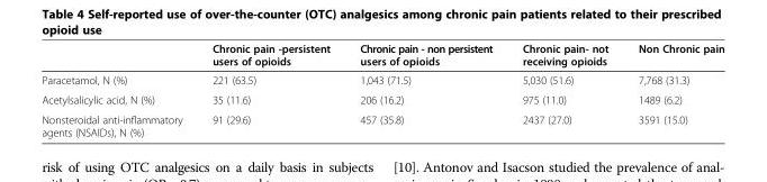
<table><thead><tr><td></td><td>Chronic pain -persistent users of opioids</td><td>Chronic pain - non persistent users of opioids</td><td>Chronic pain- not receiving opioids</td><td>Non Chronic pain</td></tr></thead><tbody><tr><td>Paracetamol, N (%)</td><td>221 (63.5)</td><td>1,043 (71.5)</td><td>5,030 (51.6)</td><td>7,768 (31.3)</td></tr><tr><td>Acetylsalicylic acid, N (%)</td><td>35 (11.6)</td><td>206 (16.2)</td><td>975 (11.0)</td><td>1489 (6.2)</td></tr><tr><td>Nonsteroidal anti-inflammatory agents (NSAIDs), N (%)</td><td>91 (29.6)</td><td>457 (35.8)</td><td>2437 (27.0)</td><td>3591 (15.0)</td></tr></tbody></table>